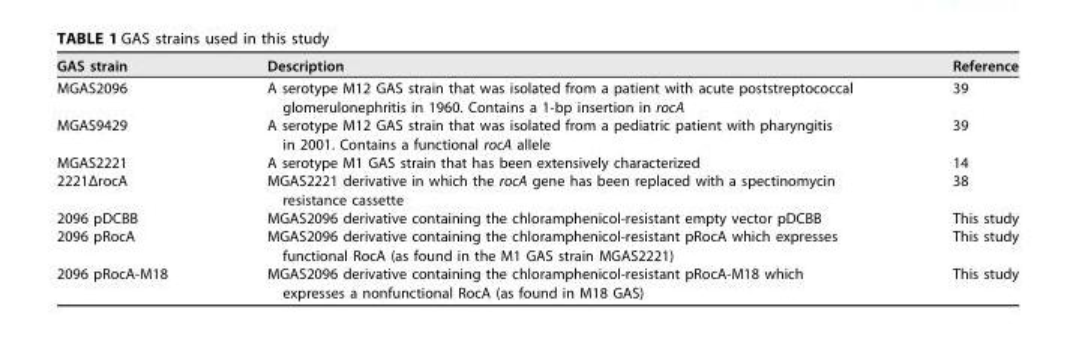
<table><thead><tr><td>GAS strain</td><td>Description</td><td>Reference</td></tr></thead><tbody><tr><td>MGAS2096</td><td>A serotype M12 GAS strain that was isolated from a patient with acute poststreptococcal glomerulonephritis in 1960. Contains a 1-bp insertion in rocA</td><td>39</td></tr><tr><td>MGAS9429</td><td>A serotype M12 GAS strain that was isolated from a pediatric patient with pharyngitis in 2001. Contains a functional rocA allele</td><td>39</td></tr><tr><td>MGAS2221</td><td>A serotype M1 GAS strain that has been extensively characterized</td><td>14</td></tr><tr><td>2221ΔrocA</td><td>MGAS2221 derivative in which the rocA gene has been replaced with a spectinomycin resistance cassette</td><td>38</td></tr><tr><td>2096 pDCBB</td><td>MGAS2096 derivative containing the chloramphenicol-resistant empty vector pDCBB</td><td>This study</td></tr><tr><td>2096 pRocA</td><td>MGAS2096 derivative containing the chloramphenicol-resistant pRocA which expresses functional RocA (as found in the M1 GAS strain MGAS2221)</td><td>This study</td></tr><tr><td>2096 pRocA-M18</td><td>MGAS2096 derivative containing the chloramphenicol-resistant pRocA-M18 which expresses a nonfunctional RocA (as found in M18 GAS)</td><td>This study</td></tr></tbody></table>